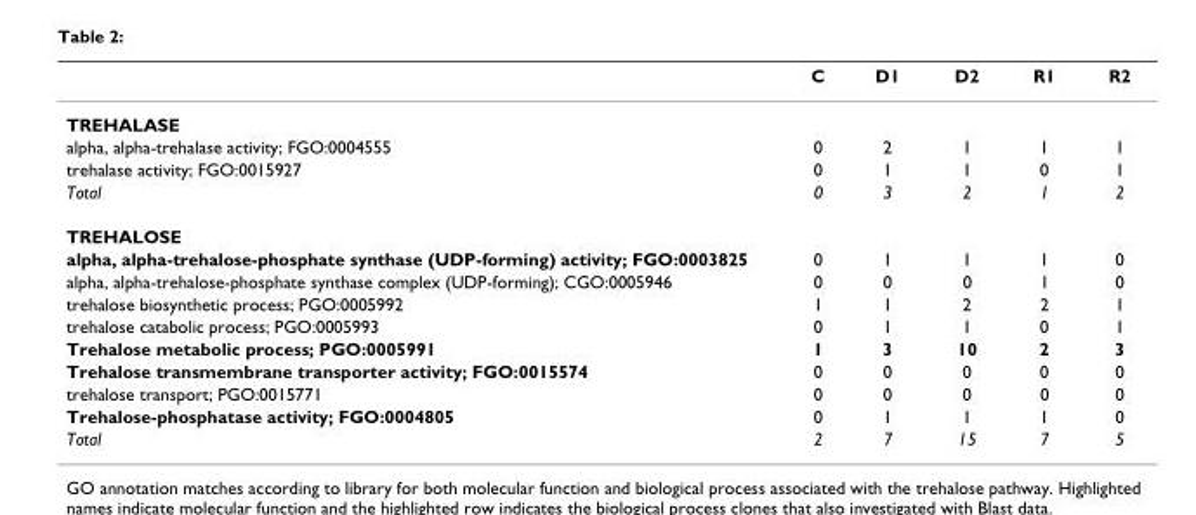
<table><thead><tr><td></td><td>C</td><td>D1</td><td>D2</td><td>R1</td><td>R2</td></tr></thead><tbody><tr><td colspan="6">TREHALASE</td></tr><tr><td>alpha, alpha-trehalase activity; FGO:0004555</td><td>0</td><td>2</td><td>1</td><td>1</td><td>1</td></tr><tr><td>trehalase activity; FGO:0015927</td><td>0</td><td>1</td><td>1</td><td>0</td><td>1</td></tr><tr><td>Total</td><td>0</td><td>3</td><td>2</td><td>1</td><td>2</td></tr><tr><td colspan="6">TREHALOSE</td></tr><tr><td>alpha, alpha-trehalose-phosphate synthase (UDP-forming) activity; FGO:0003825</td><td>0</td><td>1</td><td>1</td><td>1</td><td>0</td></tr><tr><td>alpha, alpha-trehalose-phosphate synthase complex (UDP-forming); CGO:0005946</td><td>0</td><td>0</td><td>0</td><td>1</td><td>0</td></tr><tr><td>trehalose biosynthetic process; PGO:0005992</td><td>1</td><td>1</td><td>2</td><td>2</td><td>1</td></tr><tr><td>trehalose catabolic process; PGO:0005993</td><td>0</td><td>1</td><td>1</td><td>0</td><td>1</td></tr><tr><td>Trehalose metabolic process; PGO:0005991</td><td>1</td><td>3</td><td>10</td><td>2</td><td>3</td></tr><tr><td>Trehalose transmembrane transporter activity; FGO:0015574</td><td>0</td><td>0</td><td>0</td><td>0</td><td>0</td></tr><tr><td>trehalose transport; PGO:0015771</td><td>0</td><td>0</td><td>0</td><td>0</td><td>0</td></tr><tr><td>Trehalose-phosphatase activity; FGO:0004805</td><td>0</td><td>1</td><td>1</td><td>1</td><td>0</td></tr><tr><td>Total</td><td>2</td><td>7</td><td>15</td><td>7</td><td>5</td></tr></tbody></table>